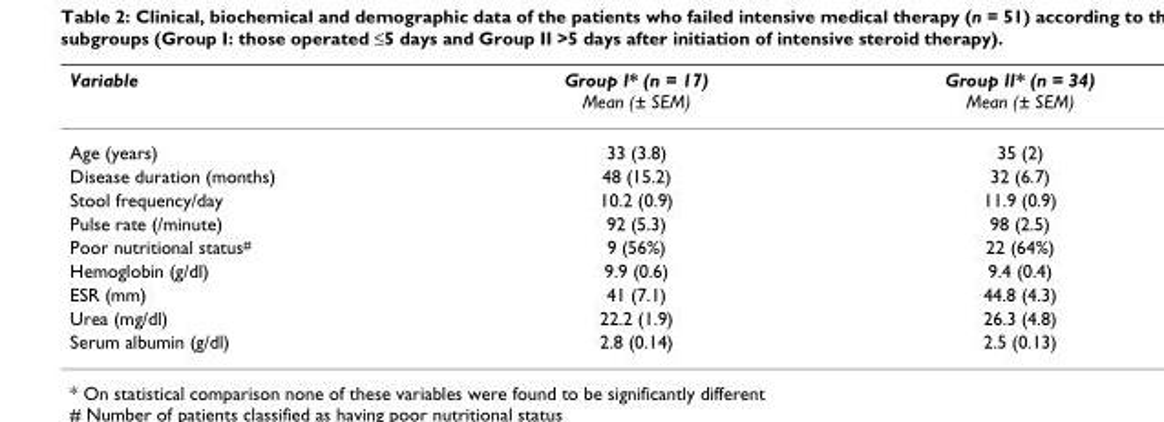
<table><thead><tr><td>Variable</td><td>Group I* (n = 17) Mean (± SEM)</td><td>Group II* (n = 34) Mean (± SEM)</td></tr></thead><tbody><tr><td>Age (years)</td><td>33 (3.8)</td><td>35 (2)</td></tr><tr><td>Disease duration (months)</td><td>48 (15.2)</td><td>32 (6.7)</td></tr><tr><td>Stool frequency/day</td><td>10.2 (0.9)</td><td>11.9 (0.9)</td></tr><tr><td>Pulse rate (/minute)</td><td>92 (5.3)</td><td>98 (2.5)</td></tr><tr><td>Poor nutritional status#</td><td>9 (56%)</td><td>22 (64%)</td></tr><tr><td>Hemoglobin (g/dl)</td><td>9.9 (0.6)</td><td>9.4 (0.4)</td></tr><tr><td>ESR (mm)</td><td>41 (7.1)</td><td>44.8 (4.3)</td></tr><tr><td>Urea (mg/dl)</td><td>22.2 (1.9)</td><td>26.3 (4.8)</td></tr><tr><td>Serum albumin (g/dl)</td><td>2.8 (0.14)</td><td>2.5 (0.13)</td></tr></tbody></table>